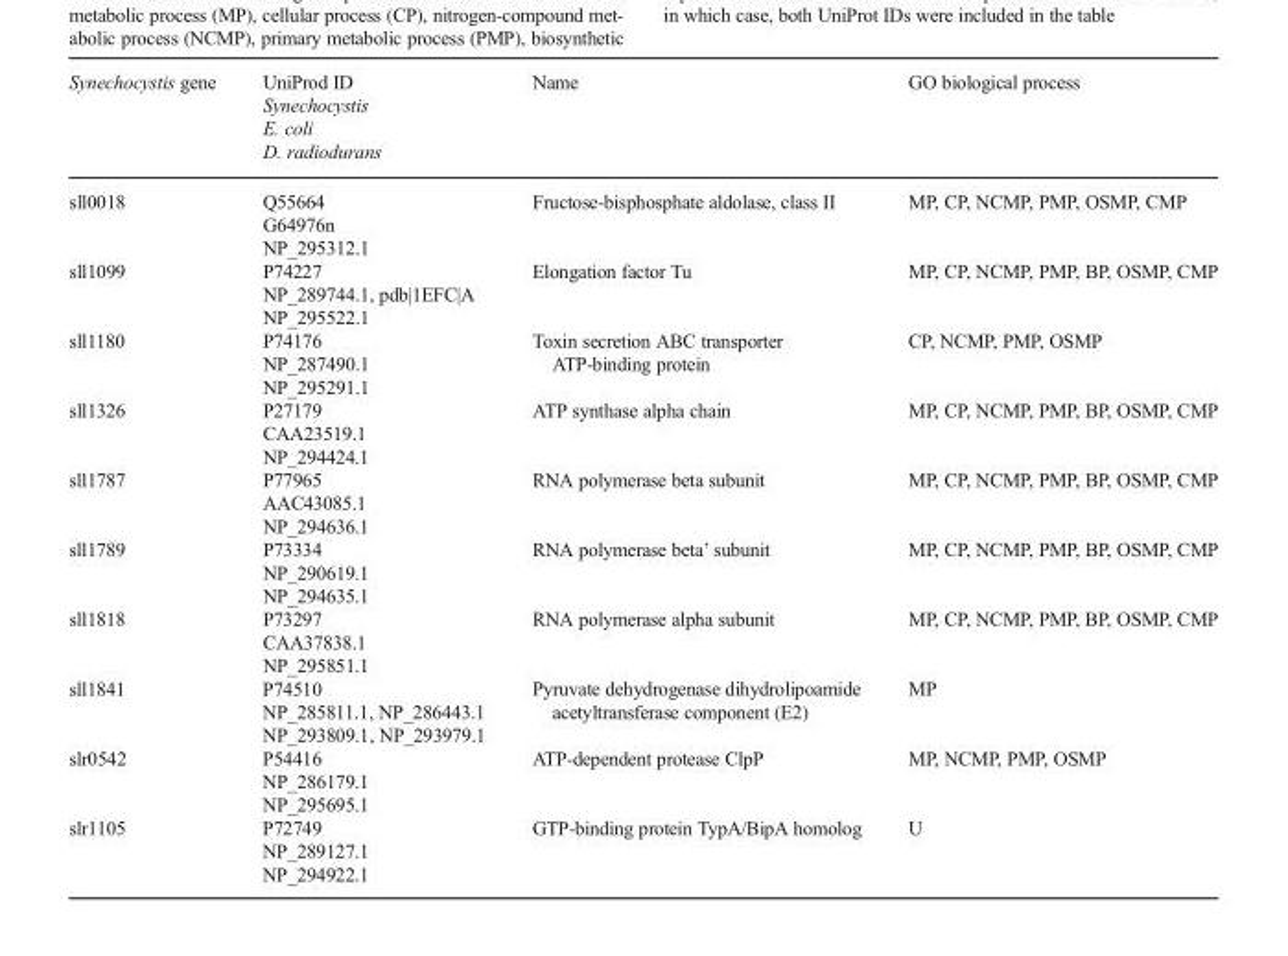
<table><thead><tr><td>Synechocystis gene</td><td>UniProd ID Synechocystis E. coli D. radiodurans</td><td>Name</td><td>GO biological process</td></tr></thead><tbody><tr><td>sll0018</td><td>Q55664 G64976n NP_295312.1</td><td>Fructose-bisphosphate aldolase, class II</td><td>MP, CP, NCMP, PMP, OSMP, CMP</td></tr><tr><td>sll1099</td><td>P74227 NP_289744.1, pdb|1EFC|A NP_295522.1</td><td>Elongation factor Tu</td><td>MP, CP, NCMP, PMP, BP, OSMP, CMP</td></tr><tr><td>sll1180</td><td>P74176 NP_287490.1 NP_295291.1</td><td>Toxin secretion ABC transporter ATP-binding protein</td><td>CP, NCMP, PMP, OSMP</td></tr><tr><td>sll1326</td><td>P27179 CAA23519.1 NP_294424.1</td><td>ATP synthase alpha chain</td><td>MP, CP, NCMP, PMP, BP, OSMP, CMP</td></tr><tr><td>sll1787</td><td>P77965 AAC43085.1 NP_294636.1</td><td>RNA polymerase beta subunit</td><td>MP, CP, NCMP, PMP, BP, OSMP, CMP</td></tr><tr><td>sll1789</td><td>P73334 NP_290619.1 NP_294635.1</td><td>RNA polymerase beta’ subunit</td><td>MP, CP, NCMP, PMP, BP, OSMP, CMP</td></tr><tr><td>sll1818</td><td>P73297 CAA37838.1 NP_295851.1</td><td>RNA polymerase alpha subunit</td><td>MP, CP, NCMP, PMP, BP, OSMP, CMP</td></tr><tr><td>sll1841</td><td>P74510 NP_285811.1, NP_286443.1 NP_293809.1, NP_293979.1</td><td>Pyruvate dehydrogenase dihydrolipoamide acetyltransferase component (E2)</td><td>MP</td></tr><tr><td>slr0542</td><td>P54416 NP_286179.1 NP_295695.1</td><td>ATP-dependent protease ClpP</td><td>MP, NCMP, PMP, OSMP</td></tr><tr><td>slr1105</td><td>P72749 NP_289127.1 NP_294922.1</td><td>GTP-binding protein TypA/BipA homolog</td><td>U</td></tr></tbody></table>